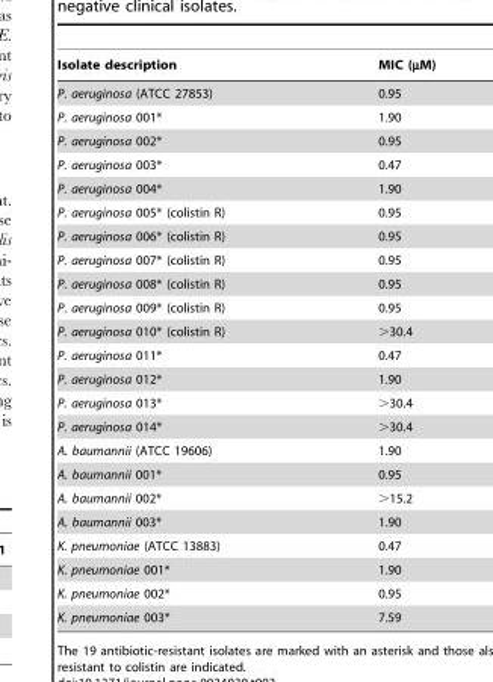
<table><thead><tr><td>Isolate description</td><td>MIC (µM)</td></tr></thead><tbody><tr><td>P. aeruginosa (ATCC 27853)</td><td>0.95</td></tr><tr><td>P. aeruginosa 001*</td><td>1.90</td></tr><tr><td>P. aeruginosa 002*</td><td>0.95</td></tr><tr><td>P. aeruginosa 003*</td><td>0.47</td></tr><tr><td>P. aeruginosa 004*</td><td>1.90</td></tr><tr><td>P. aeruginosa 005* (colistin R)</td><td>0.95</td></tr><tr><td>P. aeruginosa 006* (colistin R)</td><td>0.95</td></tr><tr><td>P. aeruginosa 007* (colistin R)</td><td>0.95</td></tr><tr><td>P. aeruginosa 008* (colistin R)</td><td>0.95</td></tr><tr><td>P. aeruginosa 009* (colistin R)</td><td>0.95</td></tr><tr><td>P. aeruginosa 010* (colistin R)</td><td>&gt;30.4</td></tr><tr><td>P. aeruginosa 011*</td><td>0.47</td></tr><tr><td>P. aeruginosa 012*</td><td>1.90</td></tr><tr><td>P. aeruginosa 013*</td><td>&gt;30.4</td></tr><tr><td>P. aeruginosa 014*</td><td>&gt;30.4</td></tr><tr><td>A. baumannii (ATCC 19606)</td><td>1.90</td></tr><tr><td>A. baumannii 001*</td><td>0.95</td></tr><tr><td>A. baumannii 002*</td><td>&gt;15.2</td></tr><tr><td>A. baumannii 003*</td><td>1.90</td></tr><tr><td>K. pneumoniae (ATCC 13883)</td><td>0.47</td></tr><tr><td>K. pneumoniae 001*</td><td>1.90</td></tr><tr><td>K. pneumoniae 002*</td><td>0.95</td></tr><tr><td>K. pneumoniae 003*</td><td>7.59</td></tr></tbody></table>